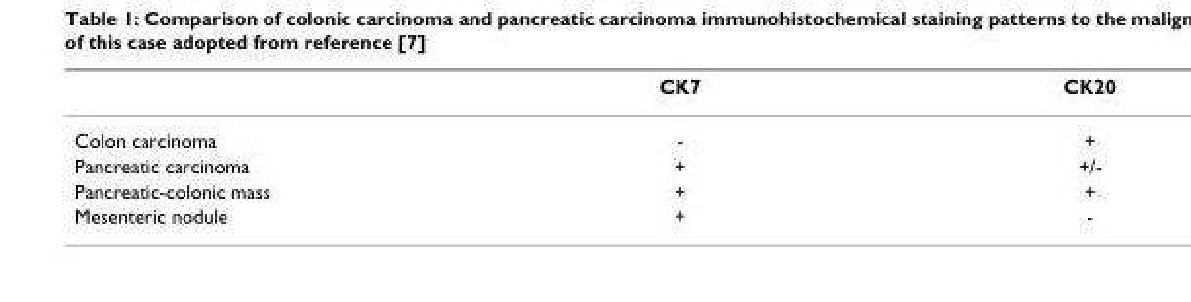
<table><thead><tr><td></td><td>CK7</td><td>CK20</td></tr></thead><tbody><tr><td>Colon carcinoma</td><td>-</td><td>+</td></tr><tr><td>Pancreatic carcinoma</td><td>+</td><td>+/-</td></tr><tr><td>Pancreatic-colonic mass</td><td>+</td><td>+</td></tr><tr><td>Mesenteric nodule</td><td>+</td><td>-</td></tr></tbody></table>